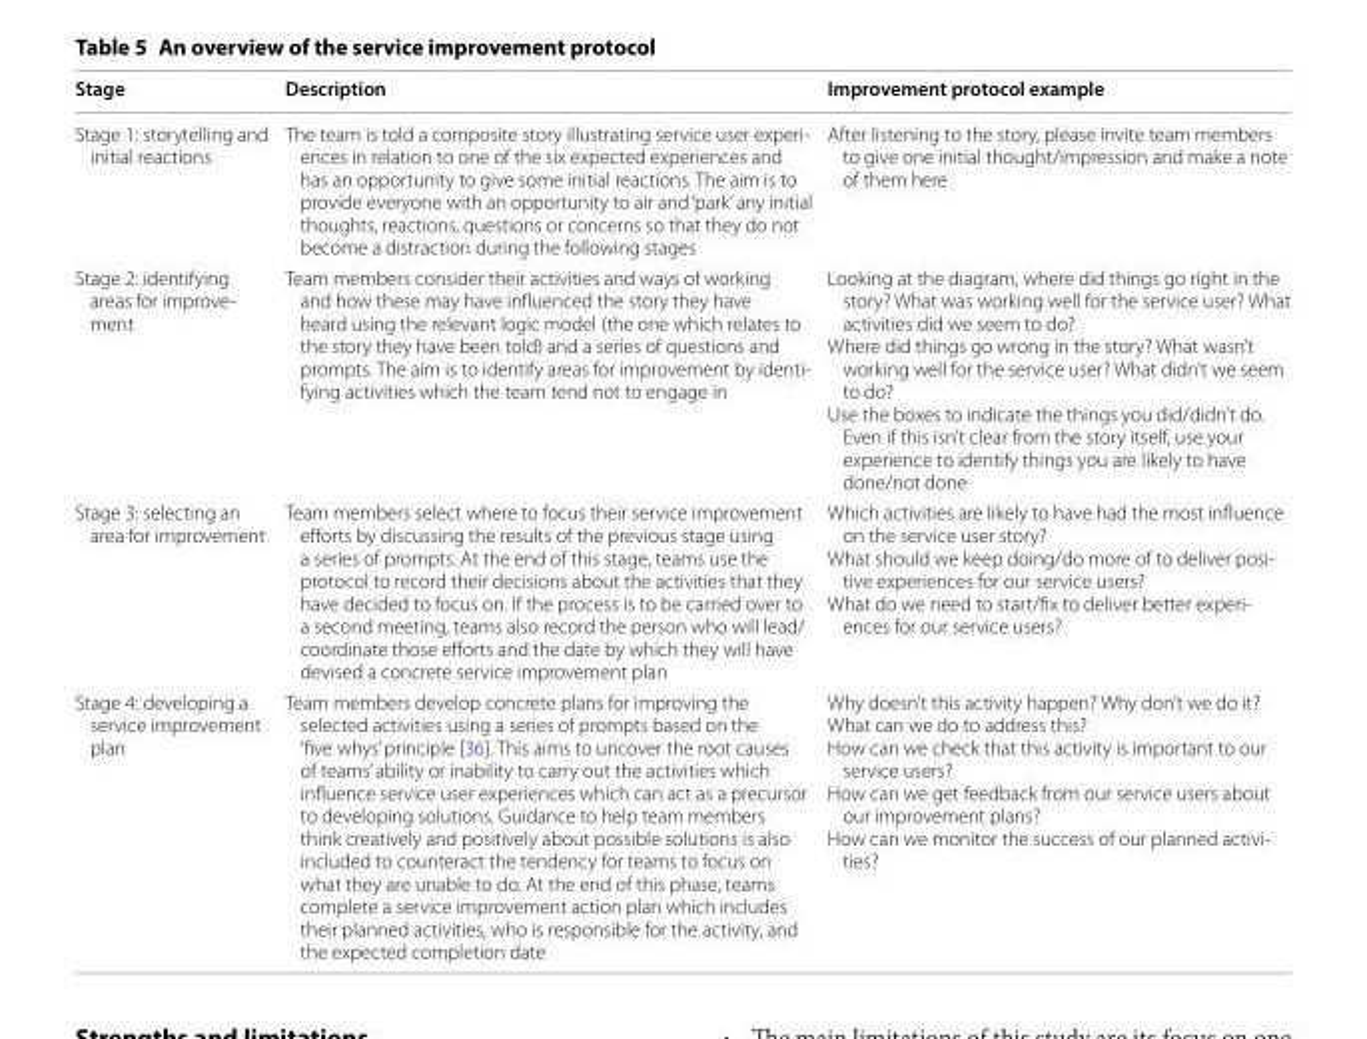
<table><thead><tr><td>Stage</td><td>Description</td><td>Improvement protocol example</td></tr></thead><tbody><tr><td>Stage 1: storytelling and initial reactions</td><td>The team is told a composite story illustrating service user experi- ences in relation to one of the six expected experiences and has an opportunity to give some initial reactions. The aim is to provide everyone with an opportunity to air and ‘park’ any initial thoughts, reactions, questions or concerns so that they do not become a distraction during the following stages</td><td>After listening to the story, please invite team members to give one initial thought/impression and make a note of them here</td></tr><tr><td>Stage 2: identifying areas for improve- ment</td><td>Team members consider their activities and ways of working and how these may have influenced the story they have heard using the relevant logic model (the one which relates to the story they have been told) and a series of questions and prompts. The aim is to identify areas for improvement by identi- fying activities which the team tend not to engage in</td><td>Looking at the diagram, where did things go right in the story? What was working well for the service user? What activities did we seem to do? Where did things go wrong in the story? What wasn’t working well for the service user? What didn’t we seem to do? Use the boxes to indicate the things you did/didn’t do. Even if this isn’t clear from the story itself, use your experience to identify things you are likely to have done/not done</td></tr><tr><td>Stage 3: selecting an area for improvement</td><td>Team members select where to focus their service improvement efforts by discussing the results of the previous stage using a series of prompts. At the end of this stage, teams use the protocol to record their decisions about the activities that they have decided to focus on. If the process is to be carried over to a second meeting, teams also record the person who will lead/ coordinate those efforts and the date by which they will have devised a concrete service improvement plan</td><td>Which activities are likely to have had the most influence on the service user story? What should we keep doing/do more of to deliver posi- tive experiences for our service users? What do we need to start/fix to deliver better experi- ences for our service users?</td></tr><tr><td>Stage 4: developing a service improvement plan</td><td>Team members develop concrete plans for improving the selected activities using a series of prompts based on the ‘five whys’ principle [36]. This aims to uncover the root causes of teams’ ability or inability to carry out the activities which influence service user experiences which can act as a precursor to developing solutions. Guidance to help team members think creatively and positively about possible solutions is also included to counteract the tendency for teams to focus on what they are unable to do. At the end of this phase, teams complete a service improvement action plan which includes their planned activities, who is responsible for the activity, and the expected completion date</td><td>Why doesn’t this activity happen? Why don’t we do it? What can we do to address this? How can we check that this activity is important to our service users? How can we get feedback from our service users about our improvement plans? How can we monitor the success of our planned activi- ties?</td></tr></tbody></table>